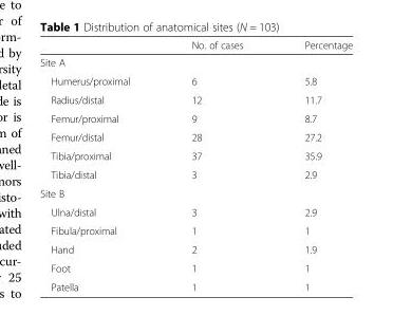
<table><thead><tr><td></td><td>No. of cases</td><td>Percentage</td></tr></thead><tbody><tr><td colspan="3">Site A</td></tr><tr><td>Humerus/proximal</td><td>6</td><td>5.8</td></tr><tr><td>Radius/distal</td><td>12</td><td>11.7</td></tr><tr><td>Femur/proximal</td><td>9</td><td>8.7</td></tr><tr><td>Femur/distal</td><td>28</td><td>27.2</td></tr><tr><td>Tibia/proximal</td><td>37</td><td>35.9</td></tr><tr><td>Tibia/distal</td><td>3</td><td>2.9</td></tr><tr><td colspan="3">Site B</td></tr><tr><td>Ulna/distal</td><td>3</td><td>2.9</td></tr><tr><td>Fibula/proximal</td><td>1</td><td>1</td></tr><tr><td>Hand</td><td>2</td><td>1.9</td></tr><tr><td>Foot</td><td>1</td><td>1</td></tr><tr><td>Patella</td><td>1</td><td>1</td></tr></tbody></table>